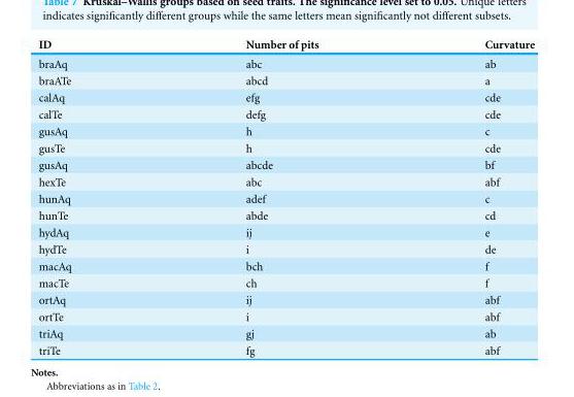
<table><thead><tr><td>ID</td><td>Number of pits</td><td>Curvature</td></tr></thead><tbody><tr><td>braAq</td><td>abc</td><td>ab</td></tr><tr><td>braATe</td><td>abcd</td><td>a</td></tr><tr><td>calAq</td><td>efg</td><td>cde</td></tr><tr><td>calTe</td><td>defg</td><td>cde</td></tr><tr><td>gusAq</td><td>h</td><td>c</td></tr><tr><td>gusTe</td><td>h</td><td>cde</td></tr><tr><td>gusAq</td><td>abcde</td><td>bf</td></tr><tr><td>hexTe</td><td>abc</td><td>abf</td></tr><tr><td>hunAq</td><td>adef</td><td>c</td></tr><tr><td>hunTe</td><td>abde</td><td>cd</td></tr><tr><td>hydAq</td><td>ij</td><td>e</td></tr><tr><td>hydTe</td><td>i</td><td>de</td></tr><tr><td>macAq</td><td>bch</td><td>f</td></tr><tr><td>macTe</td><td>ch</td><td>f</td></tr><tr><td>ortAq</td><td>ij</td><td>abf</td></tr><tr><td>ortTe</td><td>i</td><td>abf</td></tr><tr><td>triAq</td><td>gj</td><td>ab</td></tr><tr><td>triTe</td><td>fg</td><td>abf</td></tr></tbody></table>